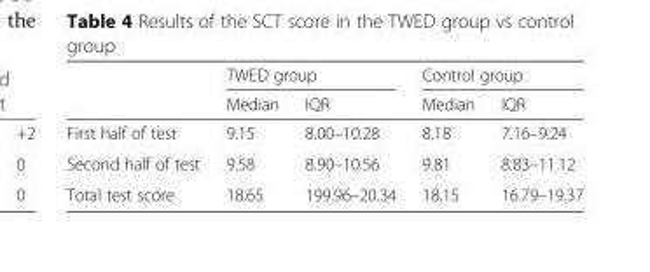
<table><thead><tr><td rowspan="2"></td><td colspan="2">TWED group</td><td colspan="2">Control group</td></tr><tr><td>Median</td><td>IQR</td><td>Median</td><td>IQR</td></tr></thead><tbody><tr><td>First half of test</td><td>9.15</td><td>8.00–10.28</td><td>8.18</td><td>7.16–9.24</td></tr><tr><td>Second half of test</td><td>9.58</td><td>8.90–10.56</td><td>9.81</td><td>8.83–11.12</td></tr><tr><td>Total test score</td><td>18.65</td><td>199.96–20.34</td><td>18.15</td><td>16.79–19.37</td></tr></tbody></table>